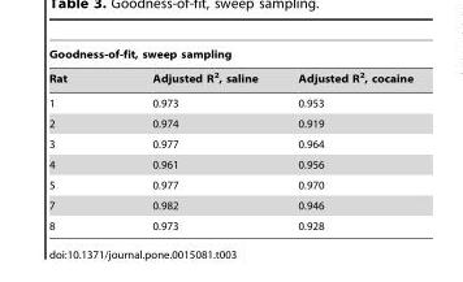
<table><thead><tr><td colspan="3">Goodness-of-fit, sweep sampling</td></tr><tr><td>Rat</td><td>Adjusted R<sup>2</sup>, saline</td><td>Adjusted R<sup>2</sup>, cocaine</td></tr></thead><tbody><tr><td>1</td><td>0.973</td><td>0.953</td></tr><tr><td>2</td><td>0.974</td><td>0.919</td></tr><tr><td>3</td><td>0.977</td><td>0.964</td></tr><tr><td>4</td><td>0.961</td><td>0.956</td></tr><tr><td>5</td><td>0.977</td><td>0.970</td></tr><tr><td>7</td><td>0.982</td><td>0.946</td></tr><tr><td>8</td><td>0.973</td><td>0.928</td></tr></tbody></table>